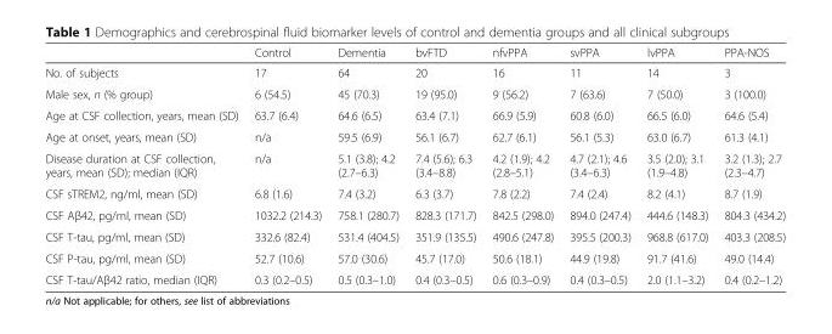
<table><thead><tr><td></td><td>Control</td><td>Dementia</td><td>bvFTD</td><td>nfvPPA</td><td>svPPA</td><td>lvPPA</td><td>PPA-NOS</td></tr></thead><tbody><tr><td>No. of subjects</td><td>17</td><td>64</td><td>20</td><td>16</td><td>11</td><td>14</td><td>3</td></tr><tr><td>Male sex, n (% group)</td><td>6 (54.5)</td><td>45 (70.3)</td><td>19 (95.0)</td><td>9 (56.2)</td><td>7 (63.6)</td><td>7 (50.0)</td><td>3 (100.0)</td></tr><tr><td>Age at CSF collection, years, mean (SD)</td><td>63.7 (6.4)</td><td>64.6 (6.5)</td><td>63.4 (7.1)</td><td>66.9 (5.9)</td><td>60.8 (6.0)</td><td>66.5 (6.0)</td><td>64.6 (5.4)</td></tr><tr><td>Age at onset, years, mean (SD)</td><td>n/a</td><td>59.5 (6.9)</td><td>56.1 (6.7)</td><td>62.7 (6.1)</td><td>56.1 (5.3)</td><td>63.0 (6.7)</td><td>61.3 (4.1)</td></tr><tr><td>Disease duration at CSF collection, years, mean (SD); median (IQR)</td><td>n/a</td><td>5.1 (3.8); 4.2 (2.7–6.3)</td><td>7.4 (5.6); 6.3 (3.4–8.8)</td><td>4.2 (1.9); 4.2 (2.8–5.1)</td><td>4.7 (2.1); 4.6 (3.4–6.3)</td><td>3.5 (2.0); 3.1 (1.9–4.8)</td><td>3.2 (1.3); 2.7 (2.3–4.7)</td></tr><tr><td>CSF sTREM2, ng/ml, mean (SD)</td><td>6.8 (1.6)</td><td>7.4 (3.2)</td><td>6.3 (3.7)</td><td>7.8 (2.2)</td><td>7.4 (2.4)</td><td>8.2 (4.1)</td><td>8.7 (1.9)</td></tr><tr><td>CSF Aβ42, pg/ml, mean (SD)</td><td>1032.2 (214.3)</td><td>758.1 (280.7)</td><td>828.3 (171.7)</td><td>842.5 (298.0)</td><td>894.0 (247.4)</td><td>444.6 (148.3)</td><td>804.3 (434.2)</td></tr><tr><td>CSF T-tau, pg/ml, mean (SD)</td><td>332.6 (82.4)</td><td>531.4 (404.5)</td><td>351.9 (135.5)</td><td>490.6 (247.8)</td><td>395.5 (200.3)</td><td>968.8 (617.0)</td><td>403.3 (208.5)</td></tr><tr><td>CSF P-tau, pg/ml, mean (SD)</td><td>52.7 (10.6)</td><td>57.0 (30.6)</td><td>45.7 (17.0)</td><td>50.6 (18.1)</td><td>44.9 (19.8)</td><td>91.7 (41.6)</td><td>49.0 (14.4)</td></tr><tr><td>CSF T-tau/Aβ42 ratio, median (IQR)</td><td>0.3 (0.2–0.5)</td><td>0.5 (0.3–1.0)</td><td>0.4 (0.3–0.5)</td><td>0.6 (0.3–0.9)</td><td>0.4 (0.3–0.5)</td><td>2.0 (1.1–3.2)</td><td>0.4 (0.2–1.2)</td></tr></tbody></table>